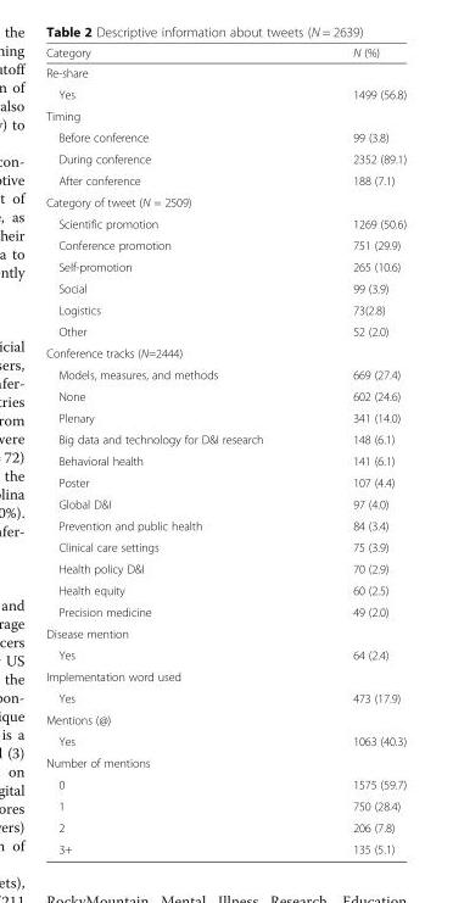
<table><thead><tr><td>Category</td><td>N (%)</td></tr></thead><tbody><tr><td colspan="2">Re-share</td></tr><tr><td>Yes</td><td>1499 (56.8)</td></tr><tr><td colspan="2">Timing</td></tr><tr><td>Before conference</td><td>99 (3.8)</td></tr><tr><td>During conference</td><td>2352 (89.1)</td></tr><tr><td>After conference</td><td>188 (7.1)</td></tr><tr><td colspan="2">Category of tweet (N = 2509)</td></tr><tr><td>Scientific promotion</td><td>1269 (50.6)</td></tr><tr><td>Conference promotion</td><td>751 (29.9)</td></tr><tr><td>Self-promotion</td><td>265 (10.6)</td></tr><tr><td>Social</td><td>99 (3.9)</td></tr><tr><td>Logistics</td><td>73(2.8)</td></tr><tr><td>Other</td><td>52 (2.0)</td></tr><tr><td colspan="2">Conference tracks (N=2444)</td></tr><tr><td>Models, measures, and methods</td><td>669 (27.4)</td></tr><tr><td>None</td><td>602 (24.6)</td></tr><tr><td>Plenary</td><td>341 (14.0)</td></tr><tr><td>Big data and technology for D&amp;I research</td><td>148 (6.1)</td></tr><tr><td>Behavioral health</td><td>141 (6.1)</td></tr><tr><td>Poster</td><td>107 (4.4)</td></tr><tr><td>Global D&amp;I</td><td>97 (4.0)</td></tr><tr><td>Prevention and public health</td><td>84 (3.4)</td></tr><tr><td>Clinical care settings</td><td>75 (3.9)</td></tr><tr><td>Health policy D&amp;I</td><td>70 (2.9)</td></tr><tr><td>Health equity</td><td>60 (2.5)</td></tr><tr><td>Precision medicine</td><td>49 (2.0)</td></tr><tr><td colspan="2">Disease mention</td></tr><tr><td>Yes</td><td>64 (2.4)</td></tr><tr><td colspan="2">Implementation word used</td></tr><tr><td>Yes</td><td>473 (17.9)</td></tr><tr><td colspan="2">Mentions (@)</td></tr><tr><td>Yes</td><td>1063 (40.3)</td></tr><tr><td colspan="2">Number of mentions</td></tr><tr><td>0</td><td>1575 (59.7)</td></tr><tr><td>1</td><td>750 (28.4)</td></tr><tr><td>2</td><td>206 (7.8)</td></tr><tr><td>3+</td><td>135 (5.1)</td></tr></tbody></table>